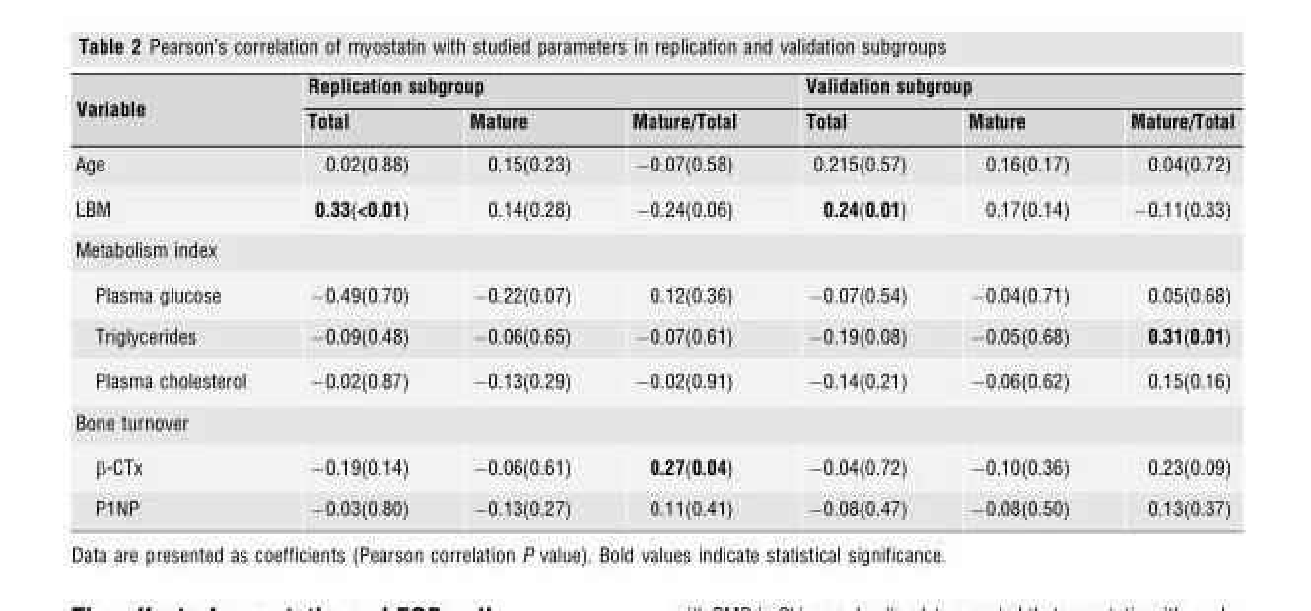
<table><thead><tr><td rowspan="2">Variable</td><td colspan="3">Replication subgroup</td><td colspan="3">Validation subgroup</td></tr><tr><td>Total</td><td>Mature</td><td>Mature/Total</td><td>Total</td><td>Mature</td><td>Mature/Total</td></tr></thead><tbody><tr><td>Age</td><td>0.02(0.88)</td><td>0.15(0.23)</td><td>−0.07(0.58)</td><td>0.215(0.57)</td><td>0.16(0.17)</td><td>0.04(0.72)</td></tr><tr><td>LBM</td><td>0.33(&lt;0.01)</td><td>0.14(0.28)</td><td>−0.24(0.06)</td><td>0.24(0.01)</td><td>0.17(0.14)</td><td>−0.11(0.33)</td></tr><tr><td colspan="7">Metabolism index</td></tr><tr><td>Plasma glucose</td><td>−0.49(0.70)</td><td>−0.22(0.07)</td><td>0.12(0.36)</td><td>−0.07(0.54)</td><td>−0.04(0.71)</td><td>0.05(0.68)</td></tr><tr><td>Triglycerides</td><td>−0.09(0.48)</td><td>−0.06(0.65)</td><td>−0.07(0.61)</td><td>−0.19(0.08)</td><td>−0.05(0.68)</td><td>0.31(0.01)</td></tr><tr><td>Plasma cholesterol</td><td>−0.02(0.87)</td><td>−0.13(0.29)</td><td>−0.02(0.91)</td><td>−0.14(0.21)</td><td>−0.06(0.62)</td><td>0.15(0.16)</td></tr><tr><td colspan="7">Bone turnover</td></tr><tr><td>β-CTx</td><td>−0.19(0.14)</td><td>−0.06(0.61)</td><td>0.27(0.04)</td><td>−0.04(0.72)</td><td>−0.10(0.36)</td><td>0.23(0.09)</td></tr><tr><td>P1NP</td><td>−0.03(0.80)</td><td>−0.13(0.27)</td><td>0.11(0.41)</td><td>−0.08(0.47)</td><td>−0.08(0.50)</td><td>0.13(0.37)</td></tr></tbody></table>